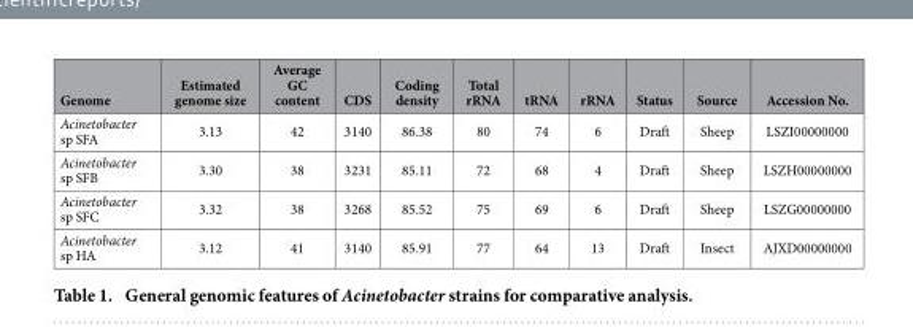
<table><thead><tr><td>Genome</td><td>Estimated genome size</td><td>Average GC content</td><td>CDS</td><td>Coding density</td><td>Total rRNA</td><td>tRNA</td><td>rRNA</td><td>Status</td><td>Source</td><td>Accession No.</td></tr></thead><tbody><tr><td>Acinetobacter sp SFA</td><td>3.13</td><td>42</td><td>3140</td><td>86.38</td><td>80</td><td>74</td><td>6</td><td>Draft</td><td>Sheep</td><td>LSZI00000000</td></tr><tr><td>Acinetobacter sp SFB</td><td>3.30</td><td>38</td><td>3231</td><td>85.11</td><td>72</td><td>68</td><td>4</td><td>Draft</td><td>Sheep</td><td>LSZH00000000</td></tr><tr><td>Acinetobacter sp SFC</td><td>3.32</td><td>38</td><td>3268</td><td>85.52</td><td>75</td><td>69</td><td>6</td><td>Draft</td><td>Sheep</td><td>LSZG00000000</td></tr><tr><td>Acinetobacter sp HA</td><td>3.12</td><td>41</td><td>3140</td><td>85.91</td><td>77</td><td>64</td><td>13</td><td>Draft</td><td>Insect</td><td>AJXD00000000</td></tr></tbody></table>